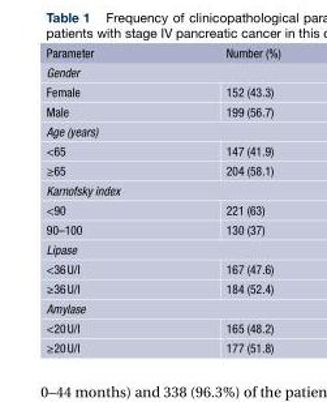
<table><thead><tr><td>Parameter</td><td>Number (%)</td></tr></thead><tbody><tr><td colspan="2">Gender</td></tr><tr><td>Female</td><td>152 (43.3)</td></tr><tr><td>Male</td><td>199 (56.7)</td></tr><tr><td colspan="2">Age (years)</td></tr><tr><td>&lt;65</td><td>147 (41.9)</td></tr><tr><td>≥65</td><td>204 (58.1)</td></tr><tr><td colspan="2">Karnofsky index</td></tr><tr><td>&lt;90</td><td>221 (63)</td></tr><tr><td>90–100</td><td>130 (37)</td></tr><tr><td colspan="2">Lipase</td></tr><tr><td>&lt;36U/l</td><td>167 (47.6)</td></tr><tr><td>≥36U/l</td><td>184 (52.4)</td></tr><tr><td colspan="2">Amylase</td></tr><tr><td>&lt;20U/l</td><td>165 (48.2)</td></tr><tr><td>≥20U/l</td><td>177 (51.8)</td></tr></tbody></table>